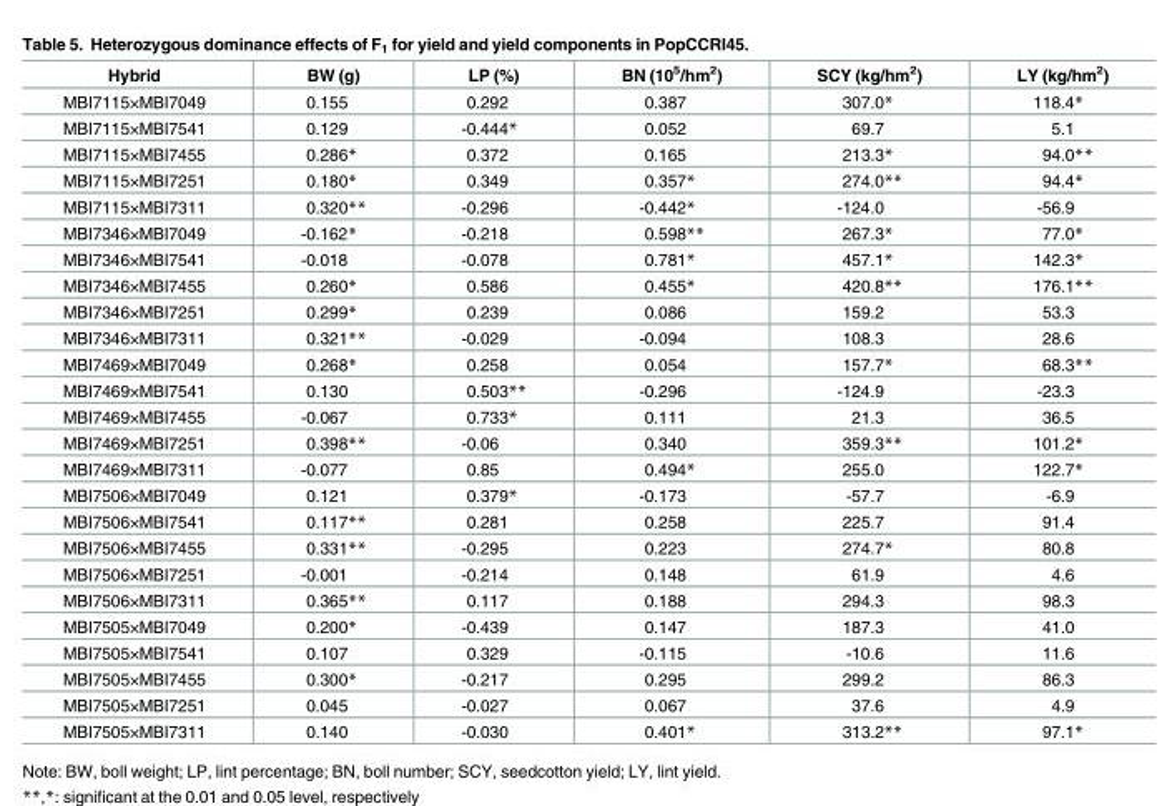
<table><thead><tr><td>Hybrid</td><td>BW (g)</td><td>LP (%)</td><td>BN (10<sup>5</sup>/hm<sup>2</sup>)</td><td>SCY (kg/hm<sup>2</sup>)</td><td>LY (kg/hm<sup>2</sup>)</td></tr></thead><tbody><tr><td>MBI7115×MBI7049</td><td>0.155</td><td>0.292</td><td>0.387</td><td>307.0*</td><td>118.4*</td></tr><tr><td>MBI7115×MBI7541</td><td>0.129</td><td>-0.444*</td><td>0.052</td><td>69.7</td><td>5.1</td></tr><tr><td>MBI7115×MBI7455</td><td>0.286*</td><td>0.372</td><td>0.165</td><td>213.3*</td><td>94.0**</td></tr><tr><td>MBI7115×MBI7251</td><td>0.180*</td><td>0.349</td><td>0.357*</td><td>274.0**</td><td>94.4*</td></tr><tr><td>MBI7115×MBI7311</td><td>0.320**</td><td>-0.296</td><td>-0.442*</td><td>-124.0</td><td>-56.9</td></tr><tr><td>MBI7346×MBI7049</td><td>-0.162*</td><td>-0.218</td><td>0.598**</td><td>267.3*</td><td>77.0*</td></tr><tr><td>MBI7346×MBI7541</td><td>-0.018</td><td>-0.078</td><td>0.781*</td><td>457.1*</td><td>142.3*</td></tr><tr><td>MBI7346×MBI7455</td><td>0.260*</td><td>0.586</td><td>0.455*</td><td>420.8**</td><td>176.1**</td></tr><tr><td>MBI7346×MBI7251</td><td>0.299*</td><td>0.239</td><td>0.086</td><td>159.2</td><td>53.3</td></tr><tr><td>MBI7346×MBI7311</td><td>0.321**</td><td>-0.029</td><td>-0.094</td><td>108.3</td><td>28.6</td></tr><tr><td>MBI7469×MBI7049</td><td>0.268*</td><td>0.258</td><td>0.054</td><td>157.7*</td><td>68.3**</td></tr><tr><td>MBI7469×MBI7541</td><td>0.130</td><td>0.503**</td><td>-0.296</td><td>-124.9</td><td>-23.3</td></tr><tr><td>MBI7469×MBI7455</td><td>-0.067</td><td>0.733*</td><td>0.111</td><td>21.3</td><td>36.5</td></tr><tr><td>MBI7469×MBI7251</td><td>0.398**</td><td>-0.06</td><td>0.340</td><td>359.3**</td><td>101.2*</td></tr><tr><td>MBI7469×MBI7311</td><td>-0.077</td><td>0.85</td><td>0.494*</td><td>255.0</td><td>122.7*</td></tr><tr><td>MBI7506×MBI7049</td><td>0.121</td><td>0.379*</td><td>-0.173</td><td>-57.7</td><td>-6.9</td></tr><tr><td>MBI7506×MBI7541</td><td>0.117**</td><td>0.281</td><td>0.258</td><td>225.7</td><td>91.4</td></tr><tr><td>MBI7506×MBI7455</td><td>0.331**</td><td>-0.295</td><td>0.223</td><td>274.7*</td><td>80.8</td></tr><tr><td>MBI7506×MBI7251</td><td>-0.001</td><td>-0.214</td><td>0.148</td><td>61.9</td><td>4.6</td></tr><tr><td>MBI7506×MBI7311</td><td>0.365**</td><td>0.117</td><td>0.188</td><td>294.3</td><td>98.3</td></tr><tr><td>MBI7505×MBI7049</td><td>0.200*</td><td>-0.439</td><td>0.147</td><td>187.3</td><td>41.0</td></tr><tr><td>MBI7505×MBI7541</td><td>0.107</td><td>0.329</td><td>-0.115</td><td>-10.6</td><td>11.6</td></tr><tr><td>MBI7505×MBI7455</td><td>0.300*</td><td>-0.217</td><td>0.295</td><td>299.2</td><td>86.3</td></tr><tr><td>MBI7505×MBI7251</td><td>0.045</td><td>-0.027</td><td>0.067</td><td>37.6</td><td>4.9</td></tr><tr><td>MBI7505×MBI7311</td><td>0.140</td><td>-0.030</td><td>0.401*</td><td>313.2**</td><td>97.1*</td></tr></tbody></table>